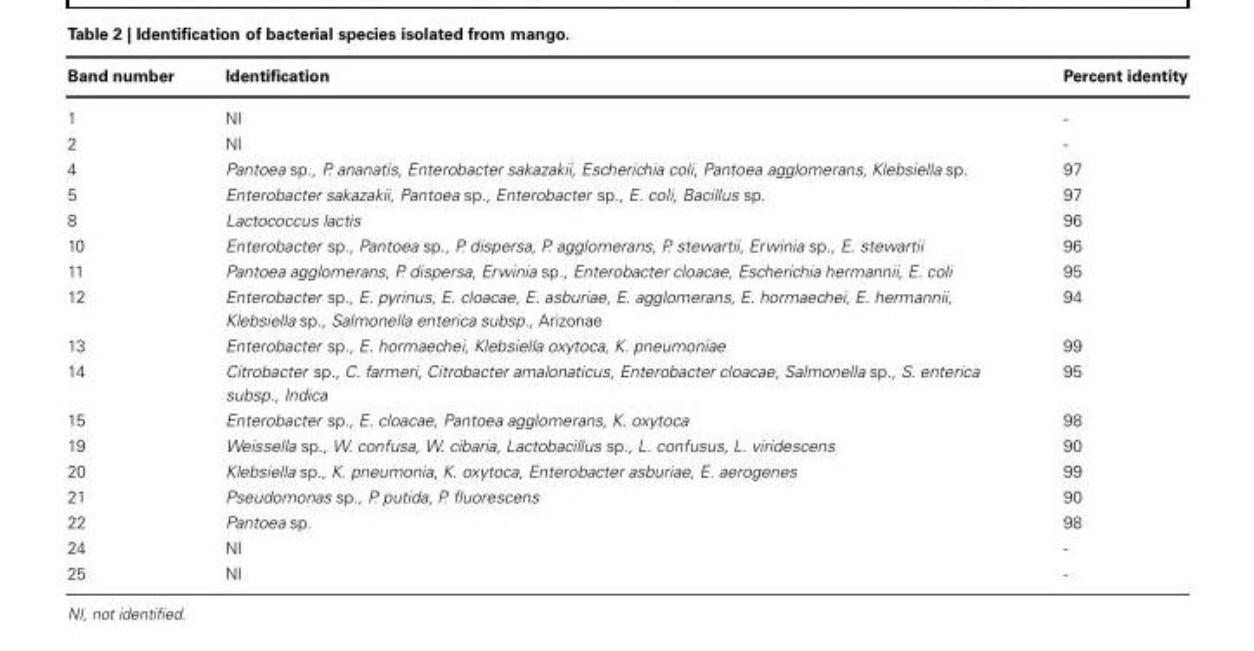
<table><thead><tr><td>Band number</td><td>Identification</td><td>Percent identity</td></tr></thead><tbody><tr><td>1</td><td>NI</td><td>-</td></tr><tr><td>2</td><td>NI</td><td>-</td></tr><tr><td>4</td><td>Pantoea sp., P. ananatis, Enterobacter sakazakii, Escherichia coli, Pantoea agglomerans, Klebsiella sp.</td><td>97</td></tr><tr><td>5</td><td>Enterobacter sakazakii, Pantoea sp., Enterobacter sp., E. coli, Bacillus sp.</td><td>97</td></tr><tr><td>8</td><td>Lactococcus lactis</td><td>96</td></tr><tr><td>10</td><td>Enterobacter sp., Pantoea sp., P. dispersa, P. agglomerans, P. stewartii, Erwinia sp., E. stewartii</td><td>96</td></tr><tr><td>11</td><td>Pantoea agglomerans, P. dispersa, Erwinia sp., Enterobacter cloacae, Escherichia hermannii, E. coli</td><td>95</td></tr><tr><td>12</td><td>Enterobacter sp., E. pyrinus, E. cloacae, E. asburiae, E. agglomerans, E. hormaechei, E. hermannii, Klebsiella sp., Salmonella enterica subsp., Arizonae</td><td>94</td></tr><tr><td>13</td><td>Enterobacter sp., E. hormaechei, Klebsiella oxytoca, K. pneumoniae</td><td>99</td></tr><tr><td>14</td><td>Citrobacter sp., C. farmeri, Citrobacter amalonaticus, Enterobacter cloacae, Salmonella sp., S. enterica subsp., Indica</td><td>95</td></tr><tr><td>15</td><td>Enterobacter sp., E. cloacae, Pantoea agglomerans, K. oxytoca</td><td>98</td></tr><tr><td>19</td><td>Weissella sp., W. confusa, W. cibaria, Lactobacillus sp., L. confusus, L. viridescens</td><td>90</td></tr><tr><td>20</td><td>Klebsiella sp., K. pneumonia, K. oxytoca, Enterobacter asburiae, E. aerogenes</td><td>99</td></tr><tr><td>21</td><td>Pseudomonas sp., P. putida, P. fluorescens</td><td>90</td></tr><tr><td>22</td><td>Pantoea sp.</td><td>98</td></tr><tr><td>24</td><td>NI</td><td>-</td></tr><tr><td>25</td><td>NI</td><td>-</td></tr></tbody></table>